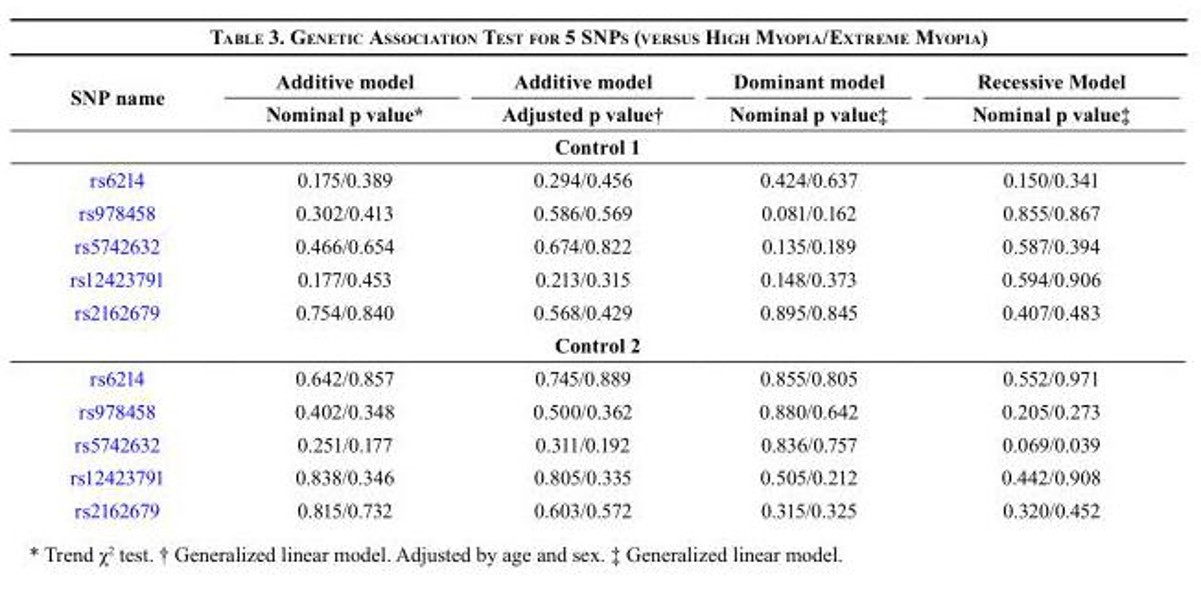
<table><thead><tr><td rowspan="2">SNP name</td><td rowspan="2">Additive model Nominal p value*</td><td rowspan="2">Additive model Adjusted p value†</td><td rowspan="2">Dominant model Nominal p value‡</td><td rowspan="2">Recessive Model Nominal p value‡</td></tr><tr></tr></thead><tbody><tr><td colspan="5">Control 1</td></tr><tr><td>rs6214</td><td>0.175/0.389</td><td>0.294/0.456</td><td>0.424/0.637</td><td>0.150/0.341</td></tr><tr><td>rs978458</td><td>0.302/0.413</td><td>0.586/0.569</td><td>0.081/0.162</td><td>0.855/0.867</td></tr><tr><td>rs5742632</td><td>0.466/0.654</td><td>0.674/0.822</td><td>0.135/0.189</td><td>0.587/0.394</td></tr><tr><td>rs12423791</td><td>0.177/0.453</td><td>0.213/0.315</td><td>0.148/0.373</td><td>0.594/0.906</td></tr><tr><td>rs2162679</td><td>0.754/0.840</td><td>0.568/0.429</td><td>0.895/0.845</td><td>0.407/0.483</td></tr><tr><td colspan="5">Control 2</td></tr><tr><td>rs6214</td><td>0.642/0.857</td><td>0.745/0.889</td><td>0.855/0.805</td><td>0.552/0.971</td></tr><tr><td>rs978458</td><td>0.402/0.348</td><td>0.500/0.362</td><td>0.880/0.642</td><td>0.205/0.273</td></tr><tr><td>rs5742632</td><td>0.251/0.177</td><td>0.311/0.192</td><td>0.836/0.757</td><td>0.069/0.039</td></tr><tr><td>rs12423791</td><td>0.838/0.346</td><td>0.805/0.335</td><td>0.505/0.212</td><td>0.442/0.908</td></tr><tr><td>rs2162679</td><td>0.815/0.732</td><td>0.603/0.572</td><td>0.315/0.325</td><td>0.320/0.452</td></tr></tbody></table>